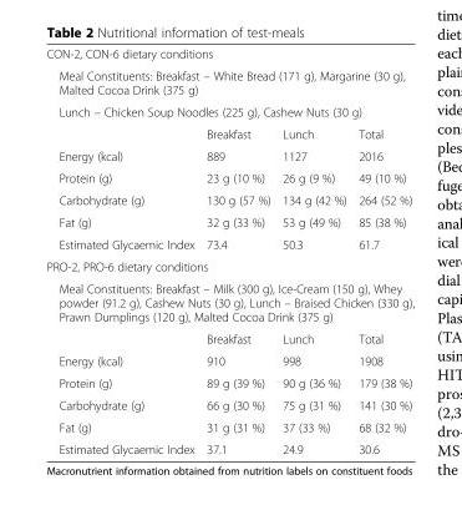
<table><tbody><tr><td colspan="4">CON-2, CON-6 dietary conditions</td></tr><tr><td colspan="4">Meal Constituents: Breakfast – White Bread (171 g), Margarine (30 g), Malted Cocoa Drink (375 g)</td></tr><tr><td colspan="4">Lunch – Chicken Soup Noodles (225 g), Cashew Nuts (30 g)</td></tr><tr><td></td><td>Breakfast</td><td>Lunch</td><td>Total</td></tr><tr><td>Energy (kcal)</td><td>889</td><td>1127</td><td>2016</td></tr><tr><td>Protein (g)</td><td>23 g (10 %)</td><td>26 g (9 %)</td><td>49 (10 %)</td></tr><tr><td>Carbohydrate (g)</td><td>130 g (57 %)</td><td>134 g (42 %)</td><td>264 (52 %)</td></tr><tr><td>Fat (g)</td><td>32 g (33 %)</td><td>53 g (49 %)</td><td>85 (38 %)</td></tr><tr><td>Estimated Glycaemic Index</td><td>73.4</td><td>50.3</td><td>61.7</td></tr><tr><td colspan="4">PRO-2, PRO-6 dietary conditions</td></tr><tr><td colspan="4">Meal Constituents: Breakfast – Milk (300 g), Ice-Cream (150 g), Whey powder (91.2 g), Cashew Nuts (30 g), Lunch – Braised Chicken (330 g), Prawn Dumplings (120 g), Malted Cocoa Drink (375 g)</td></tr><tr><td></td><td>Breakfast</td><td>Lunch</td><td>Total</td></tr><tr><td>Energy (kcal)</td><td>910</td><td>998</td><td>1908</td></tr><tr><td>Protein (g)</td><td>89 g (39 %)</td><td>90 g (36 %)</td><td>179 (38 %)</td></tr><tr><td>Carbohydrate (g)</td><td>66 g (30 %)</td><td>75 g (31 %)</td><td>141 (30 %)</td></tr><tr><td>Fat (g)</td><td>31 g (31 %)</td><td>37 (33 %)</td><td>68 (32 %)</td></tr><tr><td>Estimated Glycaemic Index</td><td>37.1</td><td>24.9</td><td>30.6</td></tr></tbody></table>